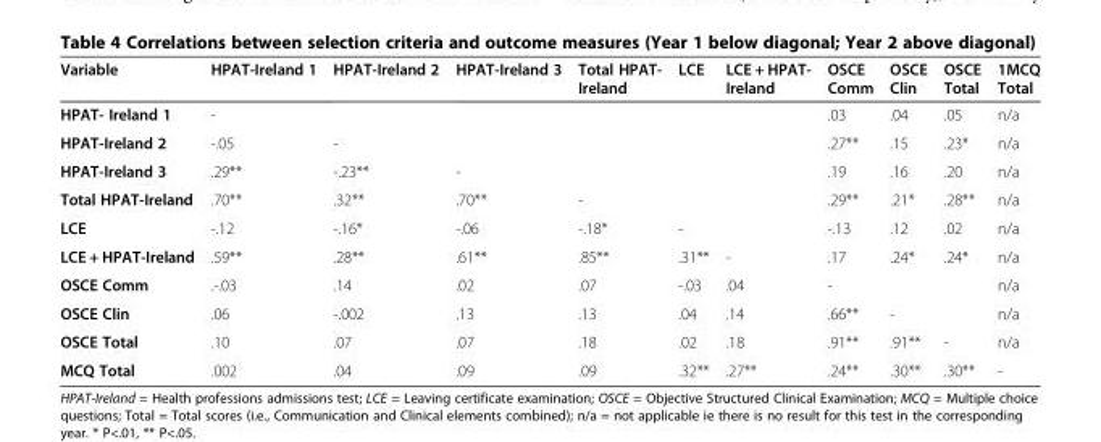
<table><thead><tr><td>Variable</td><td>HPAT-Ireland 1</td><td>HPAT-Ireland 2</td><td>HPAT-Ireland 3</td><td>Total HPAT- Ireland</td><td>LCE</td><td>LCE + HPAT- Ireland</td><td>OSCE Comm</td><td>OSCE Clin</td><td>OSCE Total</td><td>1MCQ Total</td></tr></thead><tbody><tr><td>HPAT- Ireland 1</td><td>-</td><td></td><td></td><td></td><td></td><td></td><td>.03</td><td>.04</td><td>.05</td><td>n/a</td></tr><tr><td>HPAT-Ireland 2</td><td>-.05</td><td>-</td><td></td><td></td><td></td><td></td><td>.27**</td><td>.15</td><td>.23*</td><td>n/a</td></tr><tr><td>HPAT-Ireland 3</td><td>.29**</td><td>-.23**</td><td>-</td><td></td><td></td><td></td><td>.19</td><td>.16</td><td>.20</td><td>n/a</td></tr><tr><td>Total HPAT-Ireland</td><td>.70**</td><td>.32**</td><td>.70**</td><td>-</td><td></td><td></td><td>.29**</td><td>.21*</td><td>.28**</td><td>n/a</td></tr><tr><td>LCE</td><td>-.12</td><td>-.16*</td><td>-.06</td><td>-.18*</td><td>-</td><td></td><td>-.13</td><td>.12</td><td>.02</td><td>n/a</td></tr><tr><td>LCE + HPAT-Ireland</td><td>.59**</td><td>.28**</td><td>.61**</td><td>.85**</td><td>.31**</td><td>-</td><td>.17</td><td>.24*</td><td>.24*</td><td>n/a</td></tr><tr><td>OSCE Comm</td><td>.-.03</td><td>.14</td><td>.02</td><td>.07</td><td>-.03</td><td>.04</td><td>-</td><td></td><td></td><td>n/a</td></tr><tr><td>OSCE Clin</td><td>.06</td><td>-.002</td><td>.13</td><td>.13</td><td>.04</td><td>.14</td><td>.66**</td><td>-</td><td></td><td>n/a</td></tr><tr><td>OSCE Total</td><td>.10</td><td>.07</td><td>.07</td><td>.18</td><td>.02</td><td>.18</td><td>.91**</td><td>.91**</td><td>-</td><td>n/a</td></tr><tr><td>MCQ Total</td><td>.002</td><td>.04</td><td>.09</td><td>.09</td><td>.32**</td><td>.27**</td><td>.24**</td><td>.30**</td><td>.30**</td><td>-</td></tr></tbody></table>